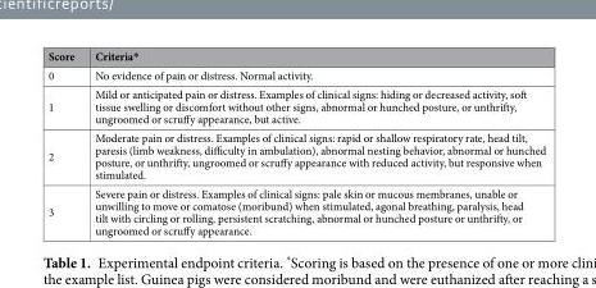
<table><thead><tr><td>Score</td><td>Criteria*</td></tr></thead><tbody><tr><td>0</td><td>No evidence of pain or distress. Normal activity.</td></tr><tr><td>1</td><td>Mild or anticipated pain or distress. Examples of clinical signs: hiding or decreased activity, soft tissue swelling or discomfort without other signs, abnormal or hunched posture, or unthrifty, ungroomed or scruffy appearance, but active.</td></tr><tr><td>2</td><td>Moderate pain or distress. Examples of clinical signs: rapid or shallow respiratory rate, head tilt, paresis (limb weakness, difficulty in ambulation), abnormal nesting behavior, abnormal or hunched posture, or unthrifty, ungroomed or scruffy appearance with reduced activity, but responsive when stimulated.</td></tr><tr><td>3</td><td>Severe pain or distress. Examples of clinical signs: pale skin or mucous membranes, unable or unwilling to move or comatose (moribund) when stimulated, agonal breathing, paralysis, head tilt with circling or rolling, persistent scratching, abnormal or hunched posture or unthrifty, or ungroomed or scruffy appearance.</td></tr></tbody></table>